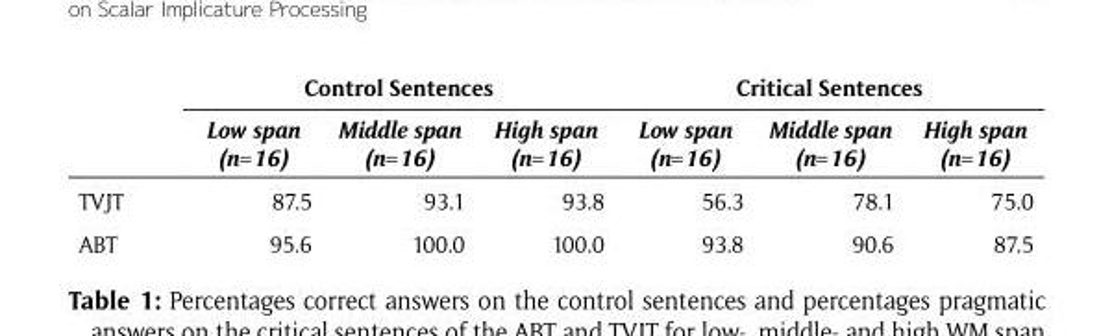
<table><thead><tr><td rowspan="2"></td><td colspan="3">Control Sentences</td><td colspan="3">Critical Sentences</td></tr><tr><td>Low span (n=16)</td><td>Middle span (n=16)</td><td>High span (n=16)</td><td>Low span (n=16)</td><td>Middle span (n=16)</td><td>High span (n=16)</td></tr></thead><tbody><tr><td>TVJT</td><td>87.5</td><td>93.1</td><td>93.8</td><td>56.3</td><td>78.1</td><td>75.0</td></tr><tr><td>ABT</td><td>95.6</td><td>100.0</td><td>100.0</td><td>93.8</td><td>90.6</td><td>87.5</td></tr></tbody></table>